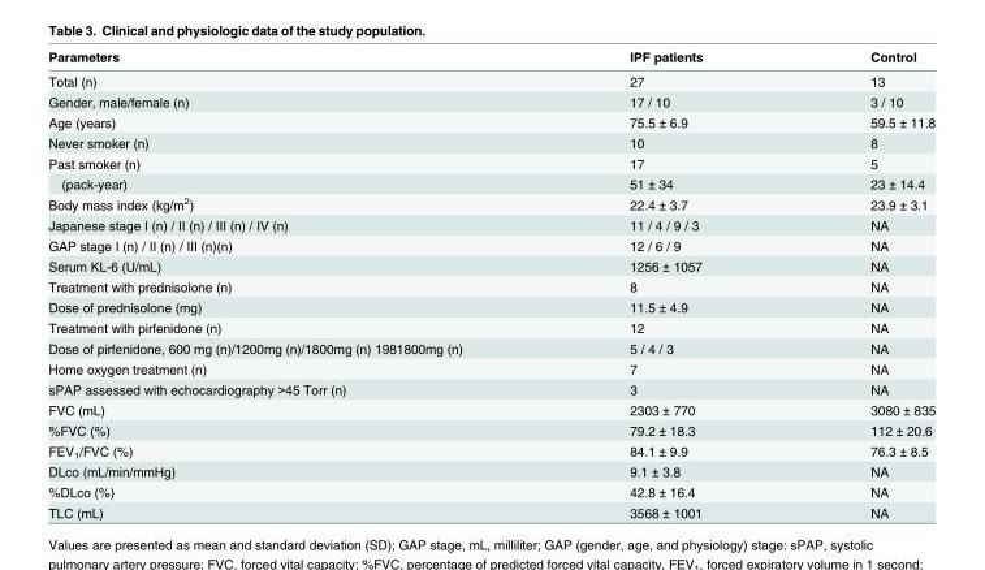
<table><thead><tr><td>Parameters</td><td>IPF patients</td><td>Control</td></tr></thead><tbody><tr><td>Total (n)</td><td>27</td><td>13</td></tr><tr><td>Gender, male/female (n)</td><td>17 / 10</td><td>3 / 10</td></tr><tr><td>Age (years)</td><td>75.5 ± 6.9</td><td>59.5 ± 11.8</td></tr><tr><td>Never smoker (n)</td><td>10</td><td>8</td></tr><tr><td>Past smoker (n)</td><td>17</td><td>5</td></tr><tr><td>(pack-year)</td><td>51 ± 34</td><td>23 ± 14.4</td></tr><tr><td>Body mass index (kg/m<sup>2</sup>)</td><td>22.4 ± 3.7</td><td>23.9 ± 3.1</td></tr><tr><td>Japanese stage I (n) / II (n) / III (n) / IV (n)</td><td>11 / 4 / 9 / 3</td><td>NA</td></tr><tr><td>GAP stage I (n) / II (n) / III (n)(n)</td><td>12 / 6 / 9</td><td>NA</td></tr><tr><td>Serum KL-6 (U/mL)</td><td>1256 ± 1057</td><td>NA</td></tr><tr><td>Treatment with prednisolone (n)</td><td>8</td><td>NA</td></tr><tr><td>Dose of prednisolone (mg)</td><td>11.5 ± 4.9</td><td>NA</td></tr><tr><td>Treatment with pirfenidone (n)</td><td>12</td><td>NA</td></tr><tr><td>Dose of pirfenidone, 600 mg (n)/1200mg (n)/1800mg (n) 1981800mg (n)</td><td>5 / 4 / 3</td><td>NA</td></tr><tr><td>Home oxygen treatment (n)</td><td>7</td><td>NA</td></tr><tr><td>sPAP assessed with echocardiography &gt;45 Torr (n)</td><td>3</td><td>NA</td></tr><tr><td>FVC (mL)</td><td>2303 ± 770</td><td>3080 ± 835</td></tr><tr><td>%FVC (%)</td><td>79.2 ± 18.3</td><td>112 ± 20.6</td></tr><tr><td>FEV<sub>1</sub>/FVC (%)</td><td>84.1 ± 9.9</td><td>76.3 ± 8.5</td></tr><tr><td>DLco (mL/min/mmHg)</td><td>9.1 ± 3.8</td><td>NA</td></tr><tr><td>%DLco (%)</td><td>42.8 ± 16.4</td><td>NA</td></tr><tr><td>TLC (mL)</td><td>3568 ± 1001</td><td>NA</td></tr></tbody></table>